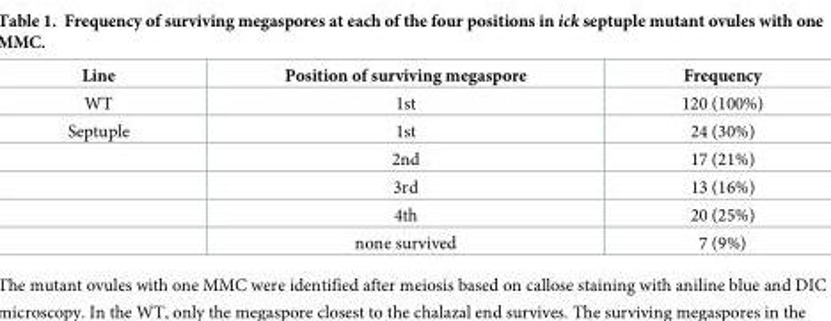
<table><thead><tr><td>Line</td><td>Position of surviving megaspore</td><td>Frequency</td></tr></thead><tbody><tr><td>WT</td><td>1st</td><td>120 (100%)</td></tr><tr><td rowspan="5">Septuple</td><td>1st</td><td>24 (30%)</td></tr><tr><td>2nd</td><td>17 (21%)</td></tr><tr><td>3rd</td><td>13 (16%)</td></tr><tr><td>4th</td><td>20 (25%)</td></tr><tr><td>none survived</td><td>7 (9%)</td></tr></tbody></table>